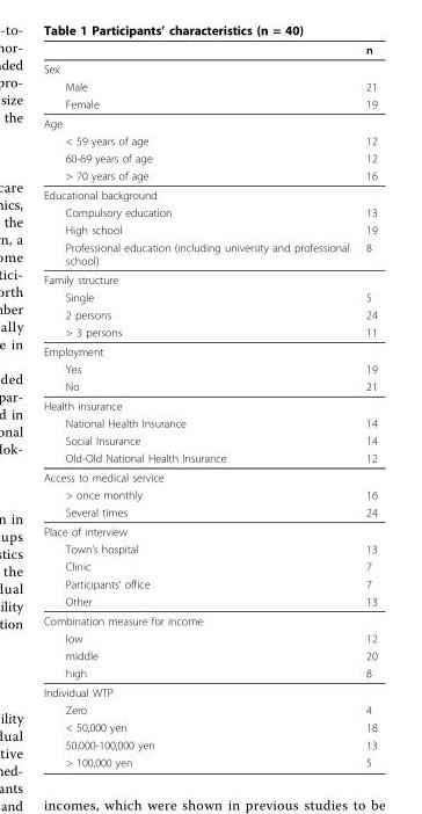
<table><thead><tr><td></td><td>n</td></tr></thead><tbody><tr><td colspan="2">Sex</td></tr><tr><td>Male</td><td>21</td></tr><tr><td>Female</td><td>19</td></tr><tr><td colspan="2">Age</td></tr><tr><td>&lt; 59 years of age</td><td>12</td></tr><tr><td>60-69 years of age</td><td>12</td></tr><tr><td>&gt; 70 years of age</td><td>16</td></tr><tr><td colspan="2">Educational background</td></tr><tr><td>Compulsory education</td><td>13</td></tr><tr><td>High school</td><td>19</td></tr><tr><td>Professional education (including university and professional school)</td><td>8</td></tr><tr><td colspan="2">Family structure</td></tr><tr><td>Single</td><td>5</td></tr><tr><td>2 persons</td><td>24</td></tr><tr><td>&gt; 3 persons</td><td>11</td></tr><tr><td colspan="2">Employment</td></tr><tr><td>Yes</td><td>19</td></tr><tr><td>No</td><td>21</td></tr><tr><td colspan="2">Health insurance</td></tr><tr><td>National Health Insurance</td><td>14</td></tr><tr><td>Social Insurance</td><td>14</td></tr><tr><td>Old-Old National Health Insurance</td><td>12</td></tr><tr><td colspan="2">Access to medical service</td></tr><tr><td>&gt; once monthly</td><td>16</td></tr><tr><td>Several times</td><td>24</td></tr><tr><td colspan="2">Place of interview</td></tr><tr><td>Town’s hospital</td><td>13</td></tr><tr><td>Clinic</td><td>7</td></tr><tr><td>Participants’ office</td><td>7</td></tr><tr><td>Other</td><td>13</td></tr><tr><td colspan="2">Combination measure for income</td></tr><tr><td>low</td><td>12</td></tr><tr><td>middle</td><td>20</td></tr><tr><td>high</td><td>8</td></tr><tr><td colspan="2">Individual WTP</td></tr><tr><td>Zero</td><td>4</td></tr><tr><td>&lt; 50,000 yen</td><td>18</td></tr><tr><td>50,000-100,000 yen</td><td>13</td></tr><tr><td>&gt; 100,000 yen</td><td>5</td></tr></tbody></table>